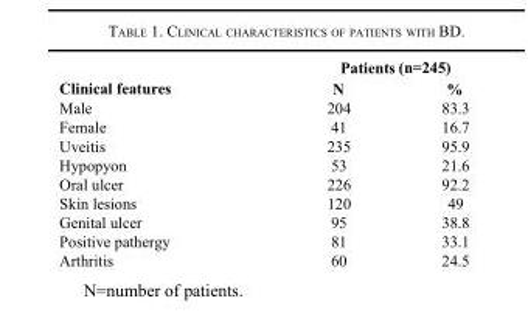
<table><thead><tr><td rowspan="2">Clinical features</td><td colspan="2">Patients (n=245)</td></tr><tr><td>N</td><td>%</td></tr></thead><tbody><tr><td>Male</td><td>204</td><td>83.3</td></tr><tr><td>Female</td><td>41</td><td>16.7</td></tr><tr><td>Uveitis</td><td>235</td><td>95.9</td></tr><tr><td>Hypopyon</td><td>53</td><td>21.6</td></tr><tr><td>Oral ulcer</td><td>226</td><td>92.2</td></tr><tr><td>Skin lesions</td><td>120</td><td>49</td></tr><tr><td>Genital ulcer</td><td>95</td><td>38.8</td></tr><tr><td>Positive pathergy</td><td>81</td><td>33.1</td></tr><tr><td>Arthritis</td><td>60</td><td>24.5</td></tr></tbody></table>